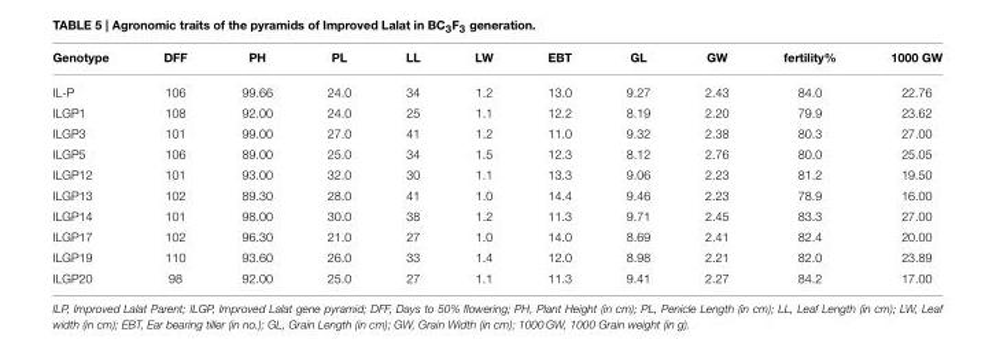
<table><thead><tr><td>Genotype</td><td>DFF</td><td>PH</td><td>PL</td><td>LL</td><td>LW</td><td>EBT</td><td>GL</td><td>GW</td><td>fertility%</td><td>1000 GW</td></tr></thead><tbody><tr><td>IL-P</td><td>106</td><td>99.66</td><td>24.0</td><td>34</td><td>1.2</td><td>13.0</td><td>9.27</td><td>2.43</td><td>84.0</td><td>22.76</td></tr><tr><td>ILGP1</td><td>108</td><td>92.00</td><td>24.0</td><td>25</td><td>1.1</td><td>12.2</td><td>8.19</td><td>2.20</td><td>79.9</td><td>23.62</td></tr><tr><td>ILGP3</td><td>101</td><td>99.00</td><td>27.0</td><td>41</td><td>1.2</td><td>11.0</td><td>9.32</td><td>2.38</td><td>80.3</td><td>27.00</td></tr><tr><td>ILGP5</td><td>106</td><td>89.00</td><td>25.0</td><td>34</td><td>1.5</td><td>12.3</td><td>8.12</td><td>2.76</td><td>80.0</td><td>25.05</td></tr><tr><td>ILGP12</td><td>101</td><td>93.00</td><td>32.0</td><td>30</td><td>1.1</td><td>13.3</td><td>9.06</td><td>2.23</td><td>81.2</td><td>19.50</td></tr><tr><td>ILGP13</td><td>102</td><td>89.30</td><td>28.0</td><td>41</td><td>1.0</td><td>14.4</td><td>9.46</td><td>2.23</td><td>78.9</td><td>16.00</td></tr><tr><td>ILGP14</td><td>101</td><td>98.00</td><td>30.0</td><td>38</td><td>1.2</td><td>11.3</td><td>9.71</td><td>2.45</td><td>83.3</td><td>27.00</td></tr><tr><td>ILGP17</td><td>102</td><td>96.30</td><td>21.0</td><td>27</td><td>1.0</td><td>14.0</td><td>8.69</td><td>2.41</td><td>82.4</td><td>20.00</td></tr><tr><td>ILGP19</td><td>110</td><td>93.60</td><td>26.0</td><td>33</td><td>1.4</td><td>12.0</td><td>8.98</td><td>2.21</td><td>82.0</td><td>23.89</td></tr><tr><td>ILGP20</td><td>98</td><td>92.00</td><td>25.0</td><td>27</td><td>1.1</td><td>11.3</td><td>9.41</td><td>2.27</td><td>84.2</td><td>17.00</td></tr></tbody></table>